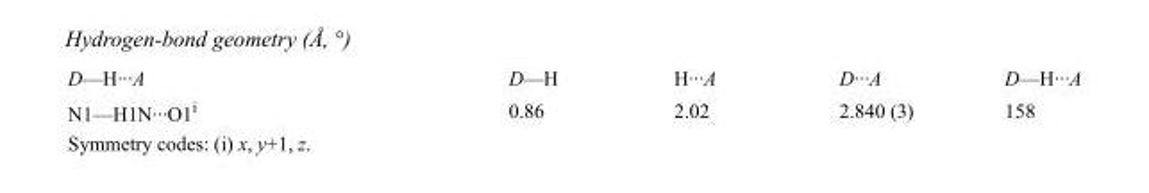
<table><tbody><tr><td>D—H···A</td><td>D—H</td><td>H···A</td><td>D···A</td><td>D—H···A</td></tr><tr><td>N1—H1N···O1<sup>i</sup></td><td>0.86</td><td>2.02</td><td>2.840 (3)</td><td>158</td></tr></tbody></table>